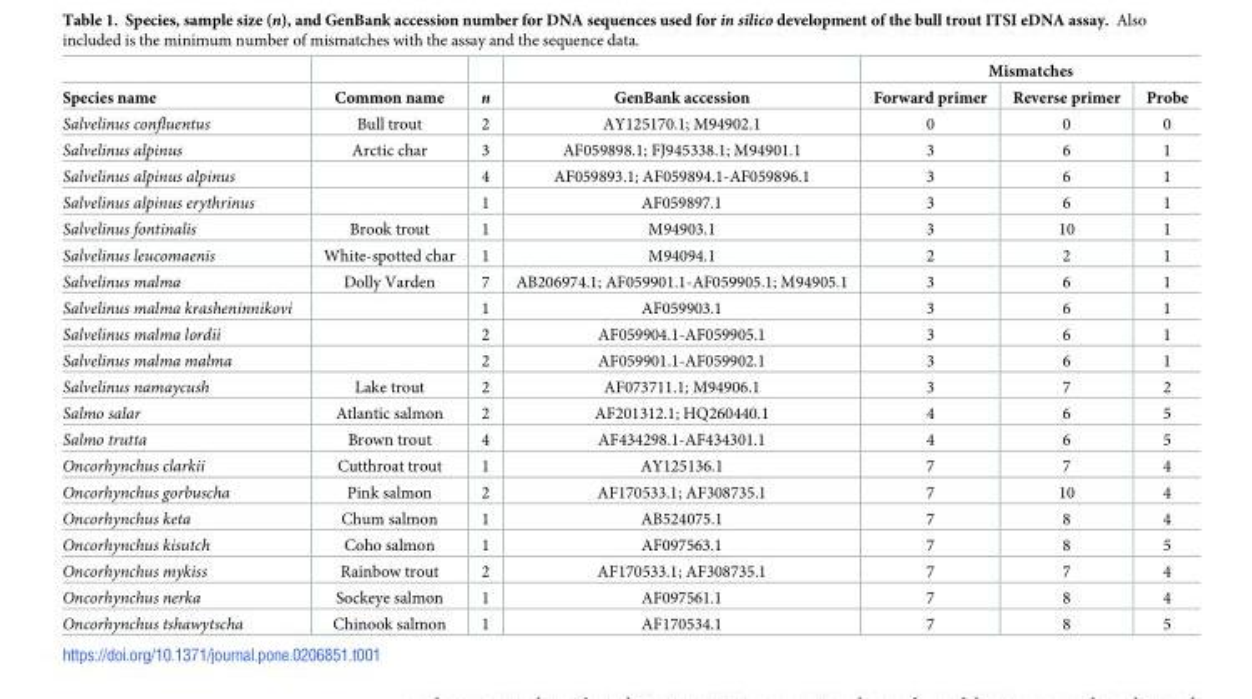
<table><thead><tr><td rowspan="2">Species name</td><td rowspan="2">Common name</td><td rowspan="2">n</td><td rowspan="2">GenBank accession</td><td colspan="3">Mismatches</td></tr><tr><td>Forward primer</td><td>Reverse primer</td><td>Probe</td></tr></thead><tbody><tr><td>Salvelinus confluentus</td><td>Bull trout</td><td>2</td><td>AY125170.1; M94902.1</td><td>0</td><td>0</td><td>0</td></tr><tr><td>Salvelinus alpinus</td><td>Arctic char</td><td>3</td><td>AF059898.1; FJ945338.1; M94901.1</td><td>3</td><td>6</td><td>1</td></tr><tr><td>Salvelinus alpinus alpinus</td><td></td><td>4</td><td>AF059893.1; AF059894.1-AF059896.1</td><td>3</td><td>6</td><td>1</td></tr><tr><td>Salvelinus alpinus erythrinus</td><td></td><td>1</td><td>AF059897.1</td><td>3</td><td>6</td><td>1</td></tr><tr><td>Salvelinus fontinalis</td><td>Brook trout</td><td>1</td><td>M94903.1</td><td>3</td><td>10</td><td>1</td></tr><tr><td>Salvelinus leucomaenis</td><td>White-spotted char</td><td>1</td><td>M94094.1</td><td>2</td><td>2</td><td>1</td></tr><tr><td>Salvelinus malma</td><td>Dolly Varden</td><td>7</td><td>AB206974.1; AF059901.1-AF059905.1; M94905.1</td><td>3</td><td>6</td><td>1</td></tr><tr><td>Salvelinus malma krasheninnikovi</td><td></td><td>1</td><td>AF059903.1</td><td>3</td><td>6</td><td>1</td></tr><tr><td>Salvelinus malma lordii</td><td></td><td>2</td><td>AF059904.1-AF059905.1</td><td>3</td><td>6</td><td>1</td></tr><tr><td>Salvelinus malma malma</td><td></td><td>2</td><td>AF059901.1-AF059902.1</td><td>3</td><td>6</td><td>1</td></tr><tr><td>Salvelinus namaycush</td><td>Lake trout</td><td>2</td><td>AF073711.1; M94906.1</td><td>3</td><td>7</td><td>2</td></tr><tr><td>Salmo salar</td><td>Atlantic salmon</td><td>2</td><td>AF201312.1; HQ260440.1</td><td>4</td><td>6</td><td>5</td></tr><tr><td>Salmo trutta</td><td>Brown trout</td><td>4</td><td>AF434298.1-AF434301.1</td><td>4</td><td>6</td><td>5</td></tr><tr><td>Oncorhynchus clarkii</td><td>Cutthroat trout</td><td>1</td><td>AY125136.1</td><td>7</td><td>7</td><td>4</td></tr><tr><td>Oncorhynchus gorbuscha</td><td>Pink salmon</td><td>2</td><td>AF170533.1; AF308735.1</td><td>7</td><td>10</td><td>4</td></tr><tr><td>Oncorhynchus keta</td><td>Chum salmon</td><td>1</td><td>AB524075.1</td><td>7</td><td>8</td><td>4</td></tr><tr><td>Oncorhynchus kisutch</td><td>Coho salmon</td><td>1</td><td>AF097563.1</td><td>7</td><td>8</td><td>5</td></tr><tr><td>Oncorhynchus mykiss</td><td>Rainbow trout</td><td>2</td><td>AF170533.1; AF308735.1</td><td>7</td><td>7</td><td>4</td></tr><tr><td>Oncorhynchus nerka</td><td>Sockeye salmon</td><td>1</td><td>AF097561.1</td><td>7</td><td>8</td><td>4</td></tr><tr><td>Oncorhynchus tshawytscha</td><td>Chinook salmon</td><td>1</td><td>AF170534.1</td><td>7</td><td>8</td><td>5</td></tr></tbody></table>